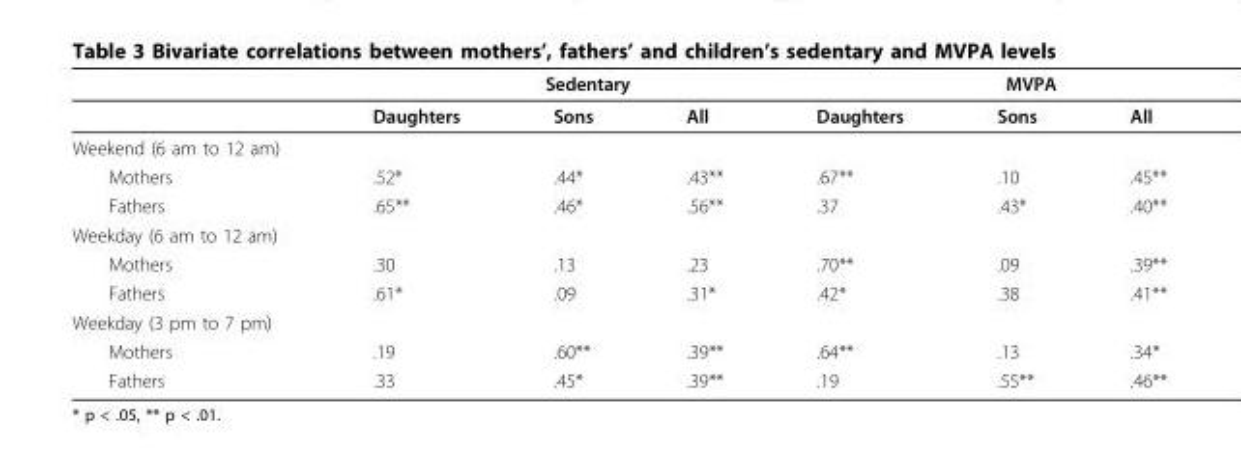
<table><thead><tr><td rowspan="2"></td><td colspan="3">Sedentary</td><td colspan="3">MVPA</td></tr><tr><td>Daughters</td><td>Sons</td><td>All</td><td>Daughters</td><td>Sons</td><td>All</td></tr></thead><tbody><tr><td colspan="7">Weekend (6 am to 12 am)</td></tr><tr><td>Mothers</td><td>.52*</td><td>.44*</td><td>.43**</td><td>.67**</td><td>.10</td><td>.45**</td></tr><tr><td>Fathers</td><td>.65**</td><td>.46*</td><td>.56**</td><td>.37</td><td>.43*</td><td>.40**</td></tr><tr><td colspan="7">Weekday (6 am to 12 am)</td></tr><tr><td>Mothers</td><td>.30</td><td>.13</td><td>.23</td><td>.70**</td><td>.09</td><td>.39**</td></tr><tr><td>Fathers</td><td>.61*</td><td>.09</td><td>.31*</td><td>.42*</td><td>.38</td><td>.41**</td></tr><tr><td colspan="7">Weekday (3 pm to 7 pm)</td></tr><tr><td>Mothers</td><td>.19</td><td>.60**</td><td>.39**</td><td>.64**</td><td>.13</td><td>.34*</td></tr><tr><td>Fathers</td><td>.33</td><td>.45*</td><td>.39**</td><td>.19</td><td>.55**</td><td>.46**</td></tr></tbody></table>